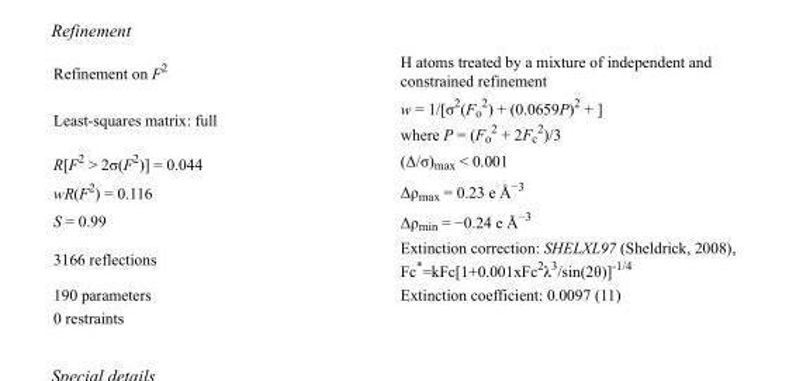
<table><tbody><tr><td>Refinement on F<sup>2</sup></td><td>H atoms treated by a mixture of independent and constrained refinement</td></tr><tr><td>Least-squares matrix: full</td><td>w = 1/[σ<sup>2</sup>(F<sub>o</sub> <sup>2</sup>) + (0.0659P)<sup>2</sup> + ] where P = (F<sub>o</sub> <sup>2</sup> + 2F<sub>c</sub> <sup>2</sup>)/3</td></tr><tr><td>R[F<sup>2</sup> &gt; 2σ(F<sup>2</sup>)] = 0.044</td><td>(Δ/σ)<sub>max</sub> &lt; 0.001</td></tr><tr><td>wR(F<sup>2</sup>) = 0.116</td><td>Δρ<sub>max</sub> = 0.23 e Å<sup>−3</sup></td></tr><tr><td>S = 0.99</td><td>Δρ<sub>min</sub> = −0.24 e Å<sup>−3</sup></td></tr><tr><td>3166 reflections</td><td>Extinction correction: SHELXL97 (Sheldrick, 2008), Fc*=kFc[1+0.001xFc<sup>2</sup>λ<sup>3</sup>/sin(2θ)]<sup>-1/4</sup></td></tr><tr><td>190 parameters</td><td>Extinction coefficient: 0.0097 (11)</td></tr><tr><td>0 restraints</td><td></td></tr></tbody></table>